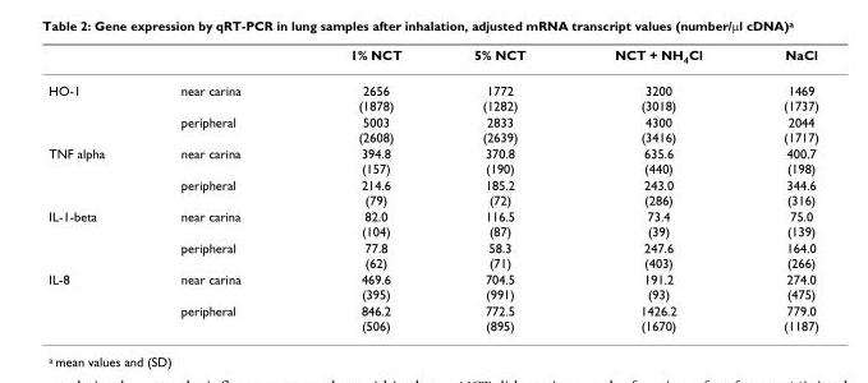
<table><thead><tr><td></td><td></td><td>1% NCT</td><td>5% NCT</td><td>NCT + NH<sub>4</sub>Cl</td><td>NaCl</td></tr></thead><tbody><tr><td rowspan="2">HO-1</td><td>near carina</td><td>2656 (1878)</td><td>1772 (1282)</td><td>3200 (3018)</td><td>1469 (1737)</td></tr><tr><td>peripheral</td><td>5003 (2608)</td><td>2833 (2639)</td><td>4300 (3416)</td><td>2044 (1717)</td></tr><tr><td rowspan="2">TNF alpha</td><td>near carina</td><td>394.8 (157)</td><td>370.8 (190)</td><td>635.6 (440)</td><td>400.7 (198)</td></tr><tr><td>peripheral</td><td>214.6 (79)</td><td>185.2 (72)</td><td>243.0 (286)</td><td>344.6 (316)</td></tr><tr><td rowspan="2">IL-1-beta</td><td>near carina</td><td>82.0 (104)</td><td>116.5 (87)</td><td>73.4 (39)</td><td>75.0 (139)</td></tr><tr><td>peripheral</td><td>77.8 (62)</td><td>58.3 (71)</td><td>247.6 (403)</td><td>164.0 (266)</td></tr><tr><td rowspan="2">IL-8</td><td>near carina</td><td>469.6 (395)</td><td>704.5 (991)</td><td>191.2 (93)</td><td>274.0 (475)</td></tr><tr><td>peripheral</td><td>846.2 (506)</td><td>772.5 (895)</td><td>1426.2 (1670)</td><td>779.0 (1187)</td></tr></tbody></table>